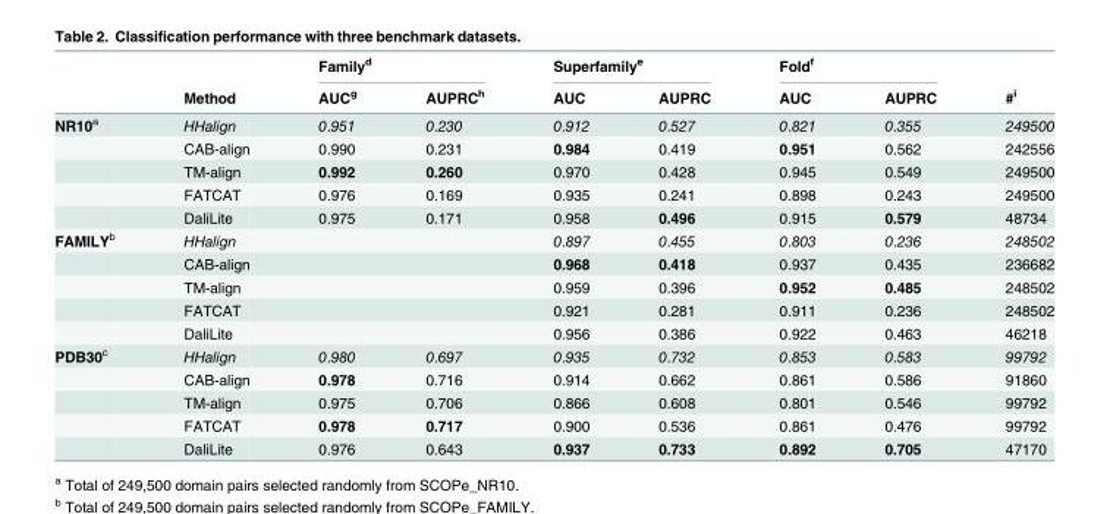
<table><thead><tr><td rowspan="2"></td><td rowspan="2">Method</td><td colspan="2">Family<sup>d</sup></td><td colspan="2">Superfamily<sup>e</sup></td><td colspan="2">Fold<sup>f</sup></td><td rowspan="2">#<sup>i</sup></td></tr><tr><td>AUC<sup>g</sup></td><td>AUPRC<sup>h</sup></td><td>AUC</td><td>AUPRC</td><td>AUC</td><td>AUPRC</td></tr></thead><tbody><tr><td rowspan="5">NR10<sup>a</sup></td><td>HHalign</td><td>0.951</td><td>0.230</td><td>0.912</td><td>0.527</td><td>0.821</td><td>0.355</td><td>249500</td></tr><tr><td>CAB-align</td><td>0.990</td><td>0.231</td><td>0.984</td><td>0.419</td><td>0.951</td><td>0.562</td><td>242556</td></tr><tr><td>TM-align</td><td>0.992</td><td>0.260</td><td>0.970</td><td>0.428</td><td>0.945</td><td>0.549</td><td>249500</td></tr><tr><td>FATCAT</td><td>0.976</td><td>0.169</td><td>0.935</td><td>0.241</td><td>0.898</td><td>0.243</td><td>249500</td></tr><tr><td>DaliLite</td><td>0.975</td><td>0.171</td><td>0.958</td><td>0.496</td><td>0.915</td><td>0.579</td><td>48734</td></tr><tr><td rowspan="5">FAMILY<sup>b</sup></td><td>HHalign</td><td></td><td></td><td>0.897</td><td>0.455</td><td>0.803</td><td>0.236</td><td>248502</td></tr><tr><td>CAB-align</td><td></td><td></td><td>0.968</td><td>0.418</td><td>0.937</td><td>0.435</td><td>236682</td></tr><tr><td>TM-align</td><td></td><td></td><td>0.959</td><td>0.396</td><td>0.952</td><td>0.485</td><td>248502</td></tr><tr><td>FATCAT</td><td></td><td></td><td>0.921</td><td>0.281</td><td>0.911</td><td>0.236</td><td>248502</td></tr><tr><td>DaliLite</td><td></td><td></td><td>0.956</td><td>0.386</td><td>0.922</td><td>0.463</td><td>46218</td></tr><tr><td rowspan="5">PDB30<sup>c</sup></td><td>HHalign</td><td>0.980</td><td>0.697</td><td>0.935</td><td>0.732</td><td>0.853</td><td>0.583</td><td>99792</td></tr><tr><td>CAB-align</td><td>0.978</td><td>0.716</td><td>0.914</td><td>0.662</td><td>0.861</td><td>0.586</td><td>91860</td></tr><tr><td>TM-align</td><td>0.975</td><td>0.706</td><td>0.866</td><td>0.608</td><td>0.801</td><td>0.546</td><td>99792</td></tr><tr><td>FATCAT</td><td>0.978</td><td>0.717</td><td>0.900</td><td>0.536</td><td>0.861</td><td>0.476</td><td>99792</td></tr><tr><td>DaliLite</td><td>0.976</td><td>0.643</td><td>0.937</td><td>0.733</td><td>0.892</td><td>0.705</td><td>47170</td></tr></tbody></table>